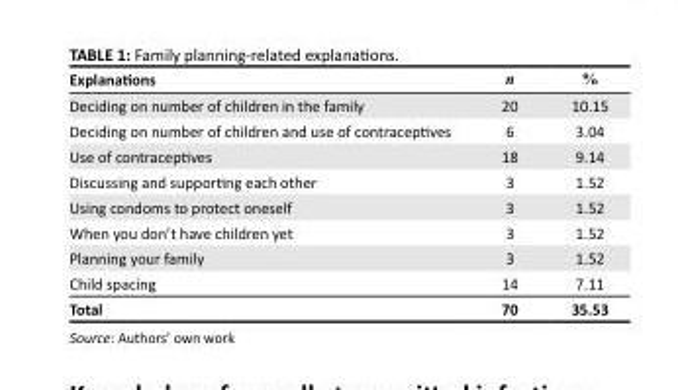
<table><thead><tr><td>Explanations</td><td>n</td><td>%</td></tr></thead><tbody><tr><td>Deciding on number of children in the family</td><td>20</td><td>10.15</td></tr><tr><td>Deciding on number of children and use of contraceptives</td><td>6</td><td>3.04</td></tr><tr><td>Use of contraceptives</td><td>18</td><td>9.14</td></tr><tr><td>Discussing and supporting each other</td><td>3</td><td>1.52</td></tr><tr><td>Using condoms to protect oneself</td><td>3</td><td>1.52</td></tr><tr><td>When you don’t have children yet</td><td>3</td><td>1.52</td></tr><tr><td>Planning your family</td><td>3</td><td>1.52</td></tr><tr><td>Child spacing</td><td>14</td><td>7.11</td></tr><tr><td>Total</td><td>70</td><td>35.53</td></tr></tbody></table>